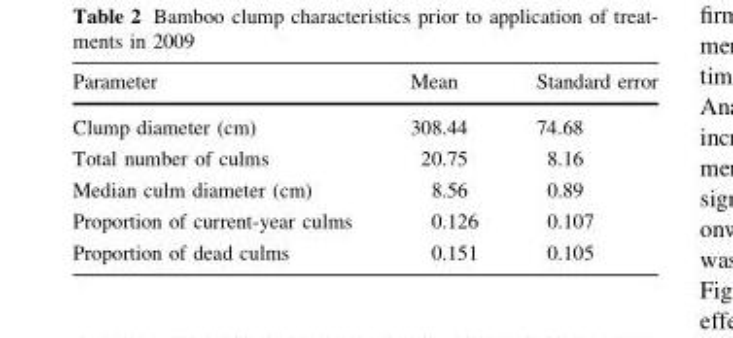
<table><thead><tr><td>Parameter</td><td>Mean</td><td>Standard error</td></tr></thead><tbody><tr><td>Clump diameter (cm)</td><td>308.44</td><td>74.68</td></tr><tr><td>Total number of culms</td><td>20.75</td><td>8.16</td></tr><tr><td>Median culm diameter (cm)</td><td>8.56</td><td>0.89</td></tr><tr><td>Proportion of current-year culms</td><td>0.126</td><td>0.107</td></tr><tr><td>Proportion of dead culms</td><td>0.151</td><td>0.105</td></tr></tbody></table>